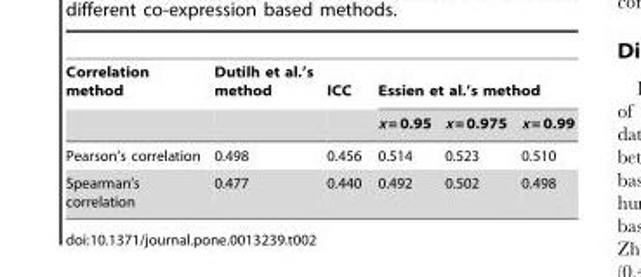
<table><thead><tr><td rowspan="2">Correlation method</td><td rowspan="2">Dutilh et al.’s method</td><td rowspan="2">ICC</td><td colspan="3">Essien et al.’s method</td></tr><tr><td>x = 0.95</td><td>x = 0.975</td><td>x = 0.99</td></tr></thead><tbody><tr><td>Pearson’s correlation</td><td>0.498</td><td>0.456</td><td>0.514</td><td>0.523</td><td>0.510</td></tr><tr><td>Spearman’s correlation</td><td>0.477</td><td>0.440</td><td>0.492</td><td>0.502</td><td>0.498</td></tr></tbody></table>